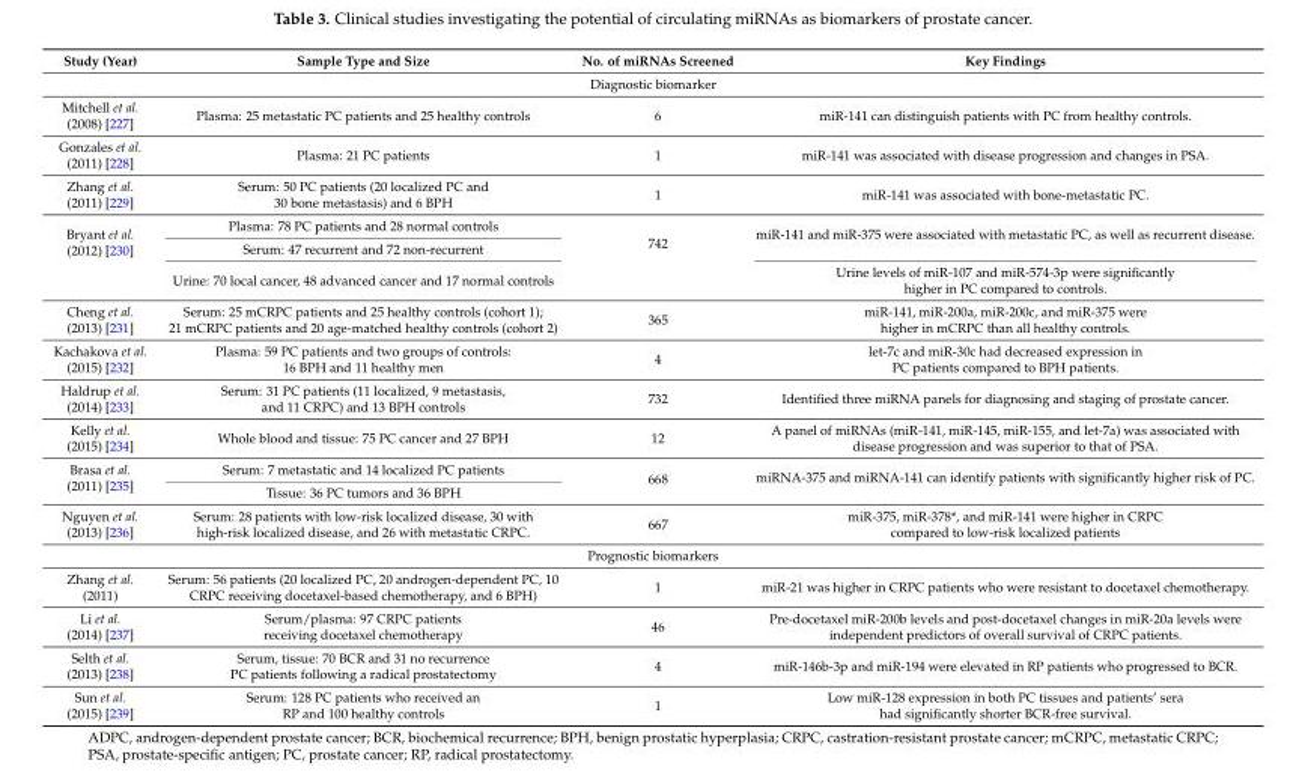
<table><thead><tr><td>Study (Year)</td><td>Sample Type and Size</td><td>No. of miRNAs Screened</td><td>Key Findings</td></tr></thead><tbody><tr><td colspan="4">Diagnostic biomarker</td></tr><tr><td>Mitchell et al. (2008) [227]</td><td>Plasma: 25 metastatic PC patients and 25 healthy controls</td><td>6</td><td>miR-141 can distinguish patients with PC from healthy controls.</td></tr><tr><td>Gonzales et al. (2011) [228]</td><td>Plasma: 21 PC patients</td><td>1</td><td>miR-141 was associated with disease progression and changes in PSA.</td></tr><tr><td>Zhang et al. (2011) [229]</td><td>Serum: 50 PC patients (20 localized PC and 30 bone metastasis) and 6 BPH</td><td>1</td><td>miR-141 was associated with bone-metastatic PC.</td></tr><tr><td rowspan="3">Bryant et al. (2012) [230]</td><td>Plasma: 78 PC patients and 28 normal controls</td><td rowspan="3">742</td><td rowspan="2">miR-141 and miR-375 were associated with metastatic PC, as well as recurrent disease.</td></tr><tr><td>Serum: 47 recurrent and 72 non-recurrent</td></tr><tr><td>Urine: 70 local cancer, 48 advanced cancer and 17 normal controls</td><td>Urine levels of miR-107 and miR-574-3p were significantly higher in PC compared to controls.</td></tr><tr><td>Cheng et al. (2013) [231]</td><td>Serum: 25 mCRPC patients and 25 healthy controls (cohort 1); 21 mCRPC patients and 20 age-matched healthy controls (cohort 2)</td><td>365</td><td>miR-141, miR-200a, miR-200c, and miR-375 were higher in mCRPC than all healthy controls.</td></tr><tr><td>Kachakova et al. (2015) [232]</td><td>Plasma: 59 PC patients and two groups of controls: 16 BPH and 11 healthy men</td><td>4</td><td>let-7c and miR-30c had decreased expression in PC patients compared to BPH patients.</td></tr><tr><td>Haldrup et al. (2014) [233]</td><td>Serum: 31 PC patients (11 localized, 9 metastasis, and 11 CRPC) and 13 BPH controls</td><td>732</td><td>Identified three miRNA panels for diagnosing and staging of prostate cancer.</td></tr><tr><td>Kelly et al. (2015) [234]</td><td>Whole blood and tissue: 75 PC cancer and 27 BPH</td><td>12</td><td>A panel of miRNAs (miR-141, miR-145, miR-155, and let-7a) was associated with disease progression and was superior to that of PSA.</td></tr><tr><td rowspan="2">Brasa et al. (2011) [235]</td><td>Serum: 7 metastatic and 14 localized PC patients</td><td rowspan="2">668</td><td rowspan="2">miRNA-375 and miRNA-141 can identify patients with significantly higher risk of PC.</td></tr><tr><td>Tissue: 36 PC tumors and 36 BPH</td></tr><tr><td>Nguyen et al. (2013) [236]</td><td>Serum: 28 patients with low-risk localized disease, 30 with high-risk localized disease, and 26 with metastatic CRPC.</td><td>667</td><td>miR-375, miR-378*, and miR-141 were higher in CRPC compared to low-risk localized patients</td></tr><tr><td colspan="4">Prognostic biomarkers</td></tr><tr><td>Zhang et al. (2011)</td><td>Serum: 56 patients (20 localized PC, 20 androgen-dependent PC, 10 CRPC receiving docetaxel-based chemotherapy, and 6 BPH)</td><td>1</td><td>miR-21 was higher in CRPC patients who were resistant to docetaxel chemotherapy.</td></tr><tr><td>Li et al. (2014) [237]</td><td>Serum/plasma: 97 CRPC patients receiving docetaxel chemotherapy</td><td>46</td><td>Pre-docetaxel miR-200b levels and post-docetaxel changes in miR-20a levels were independent predictors of overall survival of CRPC patients.</td></tr><tr><td>Selth et al. (2013) [238]</td><td>Serum, tissue: 70 BCR and 31 no recurrence PC patients following a radical prostatectomy</td><td>4</td><td>miR-146b-3p and miR-194 were elevated in RP patients who progressed to BCR.</td></tr><tr><td>Sun et al. (2015) [239]</td><td>Serum: 128 PC patients who received an RP and 100 healthy controls</td><td>1</td><td>Low miR-128 expression in both PC tissues and patients’ sera had significantly shorter BCR-free survival.</td></tr></tbody></table>